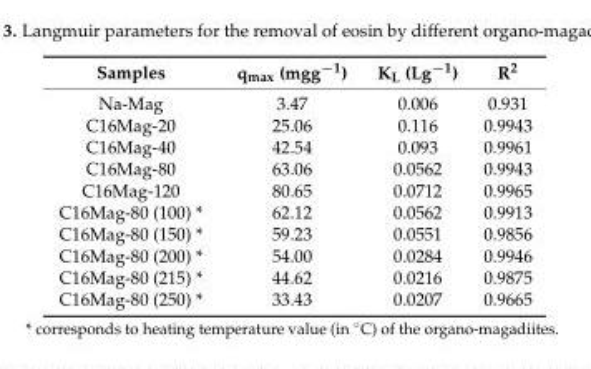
<table><thead><tr><td>Samples</td><td>q<sub>max</sub> (mgg<sup>−1</sup>)</td><td>K<sub>L</sub> (Lg<sup>−1</sup>)</td><td>R<sup>2</sup></td></tr></thead><tbody><tr><td>Na-Mag</td><td>3.47</td><td>0.006</td><td>0.931</td></tr><tr><td>C16Mag-20</td><td>25.06</td><td>0.116</td><td>0.9943</td></tr><tr><td>C16Mag-40</td><td>42.54</td><td>0.093</td><td>0.9961</td></tr><tr><td>C16Mag-80</td><td>63.06</td><td>0.0562</td><td>0.9943</td></tr><tr><td>C16Mag-120</td><td>80.65</td><td>0.0712</td><td>0.9965</td></tr><tr><td>C16Mag-80 (100) *</td><td>62.12</td><td>0.0562</td><td>0.9913</td></tr><tr><td>C16Mag-80 (150) *</td><td>59.23</td><td>0.0551</td><td>0.9856</td></tr><tr><td>C16Mag-80 (200) *</td><td>54.00</td><td>0.0284</td><td>0.9946</td></tr><tr><td>C16Mag-80 (215) *</td><td>44.62</td><td>0.0216</td><td>0.9875</td></tr><tr><td>C16Mag-80 (250) *</td><td>33.43</td><td>0.0207</td><td>0.9665</td></tr></tbody></table>